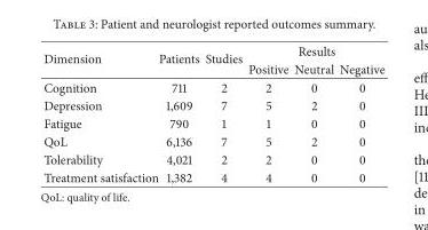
<table><thead><tr><td rowspan="2">Dimension</td><td rowspan="2">Patients</td><td rowspan="2">Studies</td><td colspan="3">Results</td></tr><tr><td>Positive</td><td>Neutral</td><td>Negative</td></tr></thead><tbody><tr><td>Cognition</td><td>711</td><td>2</td><td>2</td><td>0</td><td>0</td></tr><tr><td>Depression</td><td>1,609</td><td>7</td><td>5</td><td>2</td><td>0</td></tr><tr><td>Fatigue</td><td>790</td><td>1</td><td>1</td><td>0</td><td>0</td></tr><tr><td>QoL</td><td>6,136</td><td>7</td><td>5</td><td>2</td><td>0</td></tr><tr><td>Tolerability</td><td>4,021</td><td>2</td><td>2</td><td>0</td><td>0</td></tr><tr><td>Treatment satisfaction</td><td>1,382</td><td>4</td><td>4</td><td>0</td><td>0</td></tr></tbody></table>